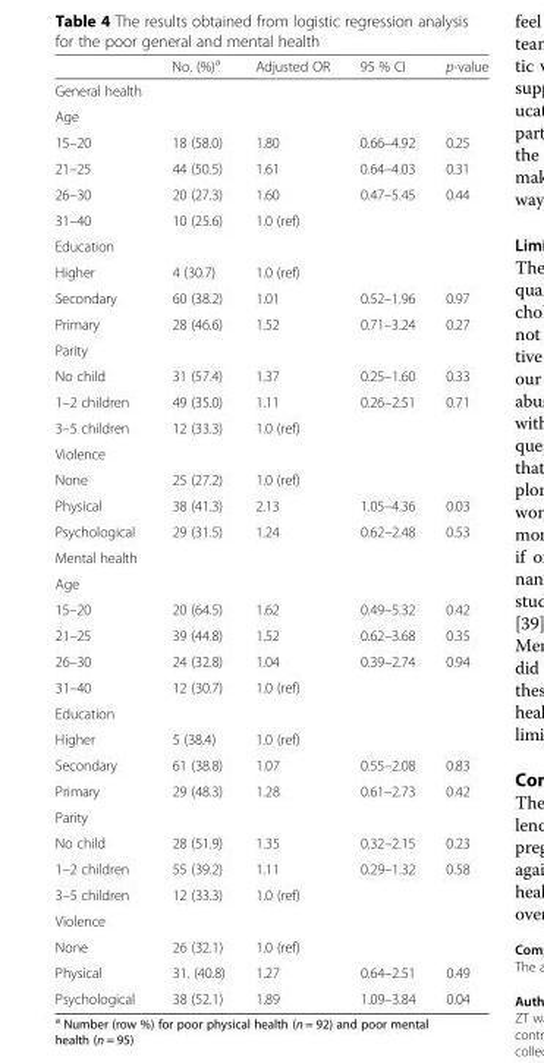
<table><thead><tr><td></td><td>No. (%)<sup>a</sup></td><td>Adjusted OR</td><td>95 % CI</td><td>p-value</td></tr></thead><tbody><tr><td colspan="5">General health</td></tr><tr><td colspan="5">Age</td></tr><tr><td>15–20</td><td>18 (58.0)</td><td>1.80</td><td>0.66–4.92</td><td>0.25</td></tr><tr><td>21–25</td><td>44 (50.5)</td><td>1.61</td><td>0.64–4.03</td><td>0.31</td></tr><tr><td>26–30</td><td>20 (27.3)</td><td>1.60</td><td>0.47–5.45</td><td>0.44</td></tr><tr><td>31–40</td><td>10 (25.6)</td><td>1.0 (ref)</td><td></td><td></td></tr><tr><td colspan="5">Education</td></tr><tr><td>Higher</td><td>4 (30.7)</td><td>1.0 (ref)</td><td></td><td></td></tr><tr><td>Secondary</td><td>60 (38.2)</td><td>1.01</td><td>0.52–1.96</td><td>0.97</td></tr><tr><td>Primary</td><td>28 (46.6)</td><td>1.52</td><td>0.71–3.24</td><td>0.27</td></tr><tr><td colspan="5">Parity</td></tr><tr><td>No child</td><td>31 (57.4)</td><td>1.37</td><td>0.25–1.60</td><td>0.33</td></tr><tr><td>1–2 children</td><td>49 (35.0)</td><td>1.11</td><td>0.26–2.51</td><td>0.71</td></tr><tr><td>3–5 children</td><td>12 (33.3)</td><td>1.0 (ref)</td><td></td><td></td></tr><tr><td colspan="5">Violence</td></tr><tr><td>None</td><td>25 (27.2)</td><td>1.0 (ref)</td><td></td><td></td></tr><tr><td>Physical</td><td>38 (41.3)</td><td>2.13</td><td>1.05–4.36</td><td>0.03</td></tr><tr><td>Psychological</td><td>29 (31.5)</td><td>1.24</td><td>0.62–2.48</td><td>0.53</td></tr><tr><td colspan="5">Mental health</td></tr><tr><td colspan="5">Age</td></tr><tr><td>15–20</td><td>20 (64.5)</td><td>1.62</td><td>0.49–5.32</td><td>0.42</td></tr><tr><td>21–25</td><td>39 (44.8)</td><td>1.52</td><td>0.62–3.68</td><td>0.35</td></tr><tr><td>26–30</td><td>24 (32.8)</td><td>1.04</td><td>0.39–2.74</td><td>0.94</td></tr><tr><td>31–40</td><td>12 (30.7)</td><td>1.0 (ref)</td><td></td><td></td></tr><tr><td colspan="5">Education</td></tr><tr><td>Higher</td><td>5 (38.4)</td><td>1.0 (ref)</td><td></td><td></td></tr><tr><td>Secondary</td><td>61 (38.8)</td><td>1.07</td><td>0.55–2.08</td><td>0.83</td></tr><tr><td>Primary</td><td>29 (48.3)</td><td>1.28</td><td>0.61–2.73</td><td>0.42</td></tr><tr><td colspan="5">Parity</td></tr><tr><td>No child</td><td>28 (51.9)</td><td>1.35</td><td>0.32–2.15</td><td>0.23</td></tr><tr><td>1–2 children</td><td>55 (39.2)</td><td>1.11</td><td>0.29–1.32</td><td>0.58</td></tr><tr><td>3–5 children</td><td>12 (33.3)</td><td>1.0 (ref)</td><td></td><td></td></tr><tr><td colspan="5">Violence</td></tr><tr><td>None</td><td>26 (32.1)</td><td>1.0 (ref)</td><td></td><td></td></tr><tr><td>Physical</td><td>31. (40.8)</td><td>1.27</td><td>0.64–2.51</td><td>0.49</td></tr><tr><td>Psychological</td><td>38 (52.1)</td><td>1.89</td><td>1.09–3.84</td><td>0.04</td></tr></tbody></table>